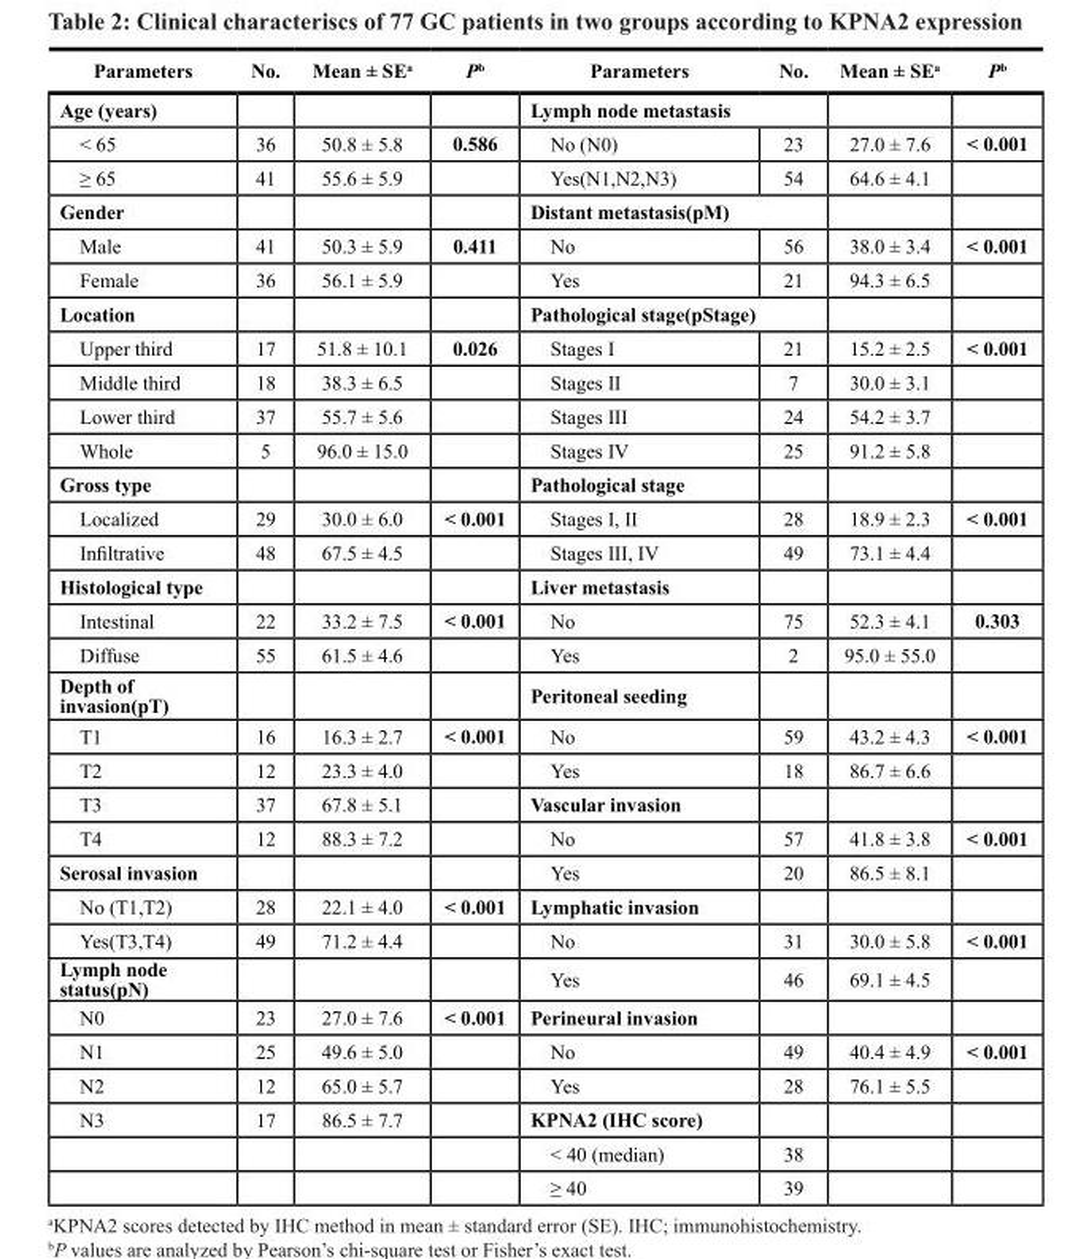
<table><thead><tr><td>Parameters</td><td>No.</td><td>Mean ± SE<sup>a</sup></td><td>P<sup>b</sup></td><td>Parameters</td><td>No.</td><td>Mean ± SE<sup>a</sup></td><td>P<sup>b</sup></td></tr></thead><tbody><tr><td>Age (years)</td><td></td><td></td><td></td><td colspan="2">Lymph node metastasis</td><td></td><td></td></tr><tr><td>&lt; 65</td><td>36</td><td>50.8 ± 5.8</td><td>0.586</td><td>No (N0)</td><td>23</td><td>27.0 ± 7.6</td><td>&lt; 0.001</td></tr><tr><td>≥ 65</td><td>41</td><td>55.6 ± 5.9</td><td></td><td>Yes(N1,N2,N3)</td><td>54</td><td>64.6 ± 4.1</td><td></td></tr><tr><td>Gender</td><td></td><td></td><td></td><td colspan="2">Distant metastasis(pM)</td><td></td><td></td></tr><tr><td>Male</td><td>41</td><td>50.3 ± 5.9</td><td>0.411</td><td>No</td><td>56</td><td>38.0 ± 3.4</td><td>&lt; 0.001</td></tr><tr><td>Female</td><td>36</td><td>56.1 ± 5.9</td><td></td><td>Yes</td><td>21</td><td>94.3 ± 6.5</td><td></td></tr><tr><td>Location</td><td></td><td></td><td></td><td colspan="2">Pathological stage(pStage)</td><td></td><td></td></tr><tr><td>Upper third</td><td>17</td><td>51.8 ± 10.1</td><td>0.026</td><td>Stages I</td><td>21</td><td>15.2 ± 2.5</td><td>&lt; 0.001</td></tr><tr><td>Middle third</td><td>18</td><td>38.3 ± 6.5</td><td></td><td>Stages II</td><td>7</td><td>30.0 ± 3.1</td><td></td></tr><tr><td>Lower third</td><td>37</td><td>55.7 ± 5.6</td><td></td><td>Stages III</td><td>24</td><td>54.2 ± 3.7</td><td></td></tr><tr><td>Whole</td><td>5</td><td>96.0 ± 15.0</td><td></td><td>Stages IV</td><td>25</td><td>91.2 ± 5.8</td><td></td></tr><tr><td>Gross type</td><td></td><td></td><td></td><td>Pathological stage</td><td></td><td></td><td></td></tr><tr><td>Localized</td><td>29</td><td>30.0 ± 6.0</td><td>&lt; 0.001</td><td>Stages I, II</td><td>28</td><td>18.9 ± 2.3</td><td>&lt; 0.001</td></tr><tr><td>Infiltrative</td><td>48</td><td>67.5 ± 4.5</td><td></td><td>Stages III, IV</td><td>49</td><td>73.1 ± 4.4</td><td></td></tr><tr><td>Histological type</td><td></td><td></td><td></td><td>Liver metastasis</td><td></td><td></td><td></td></tr><tr><td>Intestinal</td><td>22</td><td>33.2 ± 7.5</td><td>&lt; 0.001</td><td>No</td><td>75</td><td>52.3 ± 4.1</td><td>0.303</td></tr><tr><td>Diffuse</td><td>55</td><td>61.5 ± 4.6</td><td></td><td>Yes</td><td>2</td><td>95.0 ± 55.0</td><td></td></tr><tr><td>Depth of invasion(pT)</td><td></td><td></td><td></td><td>Peritoneal seeding</td><td></td><td></td><td></td></tr><tr><td>T1</td><td>16</td><td>16.3 ± 2.7</td><td>&lt; 0.001</td><td>No</td><td>59</td><td>43.2 ± 4.3</td><td>&lt; 0.001</td></tr><tr><td>T2</td><td>12</td><td>23.3 ± 4.0</td><td></td><td>Yes</td><td>18</td><td>86.7 ± 6.6</td><td></td></tr><tr><td>T3</td><td>37</td><td>67.8 ± 5.1</td><td></td><td>Vascular invasion</td><td></td><td></td><td></td></tr><tr><td>T4</td><td>12</td><td>88.3 ± 7.2</td><td></td><td>No</td><td>57</td><td>41.8 ± 3.8</td><td>&lt; 0.001</td></tr><tr><td>Serosal invasion</td><td></td><td></td><td></td><td>Yes</td><td>20</td><td>86.5 ± 8.1</td><td></td></tr><tr><td>No (T1,T2)</td><td>28</td><td>22.1 ± 4.0</td><td>&lt; 0.001</td><td>Lymphatic invasion</td><td></td><td></td><td></td></tr><tr><td>Yes(T3,T4)</td><td>49</td><td>71.2 ± 4.4</td><td></td><td>No</td><td>31</td><td>30.0 ± 5.8</td><td>&lt; 0.001</td></tr><tr><td>Lymph node status(pN)</td><td></td><td></td><td></td><td>Yes</td><td>46</td><td>69.1 ± 4.5</td><td></td></tr><tr><td>N0</td><td>23</td><td>27.0 ± 7.6</td><td>&lt; 0.001</td><td>Perineural invasion</td><td></td><td></td><td></td></tr><tr><td>N1</td><td>25</td><td>49.6 ± 5.0</td><td></td><td>No</td><td>49</td><td>40.4 ± 4.9</td><td>&lt; 0.001</td></tr><tr><td>N2</td><td>12</td><td>65.0 ± 5.7</td><td></td><td>Yes</td><td>28</td><td>76.1 ± 5.5</td><td></td></tr><tr><td rowspan="3">N3</td><td>17</td><td>86.5 ± 7.7</td><td></td><td>KPNA2 (IHC score)</td><td></td><td></td><td></td></tr><tr><td></td><td></td><td></td><td>&lt; 40 (median)</td><td>38</td><td></td><td></td></tr><tr><td></td><td></td><td></td><td>≥ 40</td><td>39</td><td></td><td></td></tr></tbody></table>